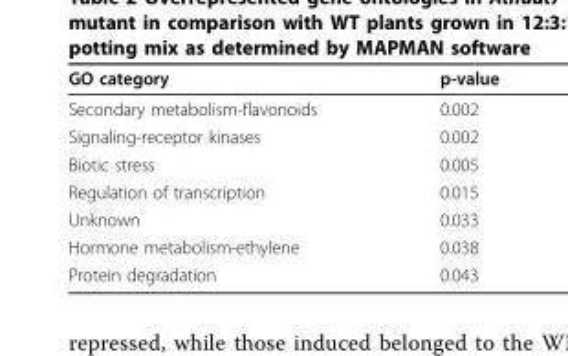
<table><thead><tr><td>GO category</td><td>p-value</td></tr></thead><tbody><tr><td>Secondary metabolism-flavonoids</td><td>0.002</td></tr><tr><td>Signaling-receptor kinases</td><td>0.002</td></tr><tr><td>Biotic stress</td><td>0.005</td></tr><tr><td>Regulation of transcription</td><td>0.015</td></tr><tr><td>Unknown</td><td>0.033</td></tr><tr><td>Hormone metabolism-ethylene</td><td>0.038</td></tr><tr><td>Protein degradation</td><td>0.043</td></tr></tbody></table>